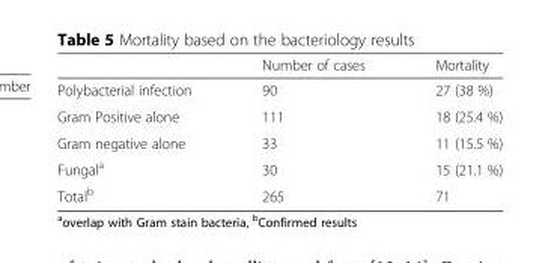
<table><thead><tr><td></td><td>Number of cases</td><td>Mortality</td></tr></thead><tbody><tr><td>Polybacterial infection</td><td>90</td><td>27 (38 %)</td></tr><tr><td>Gram Positive alone</td><td>111</td><td>18 (25.4 %)</td></tr><tr><td>Gram negative alone</td><td>33</td><td>11 (15.5 %)</td></tr><tr><td>Fungal<sup>a</sup></td><td>30</td><td>15 (21.1 %)</td></tr><tr><td>Total<sup>b</sup></td><td>265</td><td>71</td></tr></tbody></table>